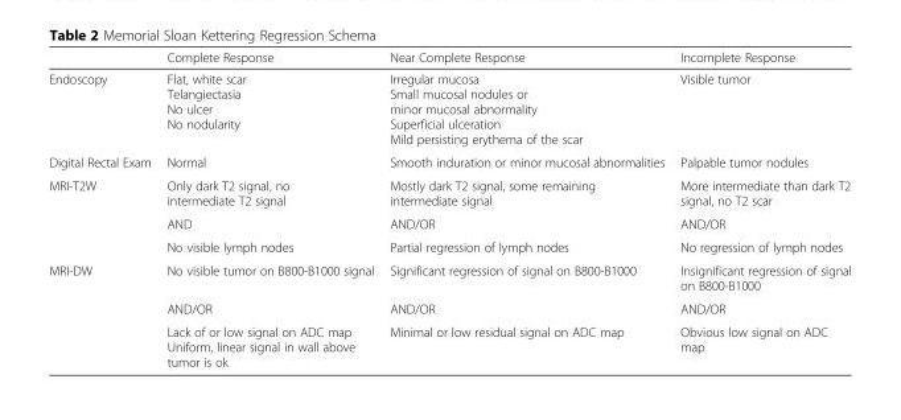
<table><thead><tr><td></td><td>Complete Response</td><td>Near Complete Response</td><td>Incomplete Response</td></tr></thead><tbody><tr><td>Endoscopy</td><td>Flat, white scar Telangiectasia No ulcer No nodularity</td><td>Irregular mucosa Small mucosal nodules or minor mucosal abnormality Superficial ulceration Mild persisting erythema of the scar</td><td>Visible tumor</td></tr><tr><td>Digital Rectal Exam</td><td>Normal</td><td>Smooth induration or minor mucosal abnormalities</td><td>Palpable tumor nodules</td></tr><tr><td rowspan="3">MRI-T2W</td><td>Only dark T2 signal, no intermediate T2 signal</td><td>Mostly dark T2 signal, some remaining intermediate signal</td><td>More intermediate than dark T2 signal, no T2 scar</td></tr><tr><td>AND</td><td>AND/OR</td><td>AND/OR</td></tr><tr><td>No visible lymph nodes</td><td>Partial regression of lymph nodes</td><td>No regression of lymph nodes</td></tr><tr><td rowspan="3">MRI-DW</td><td>No visible tumor on B800-B1000 signal</td><td>Significant regression of signal on B800-B1000</td><td>Insignificant regression of signal on B800-B1000</td></tr><tr><td>AND/OR</td><td>AND/OR</td><td>AND/OR</td></tr><tr><td>Lack of or low signal on ADC map Uniform, linear signal in wall above tumor is ok</td><td>Minimal or low residual signal on ADC map</td><td>Obvious low signal on ADC map</td></tr></tbody></table>